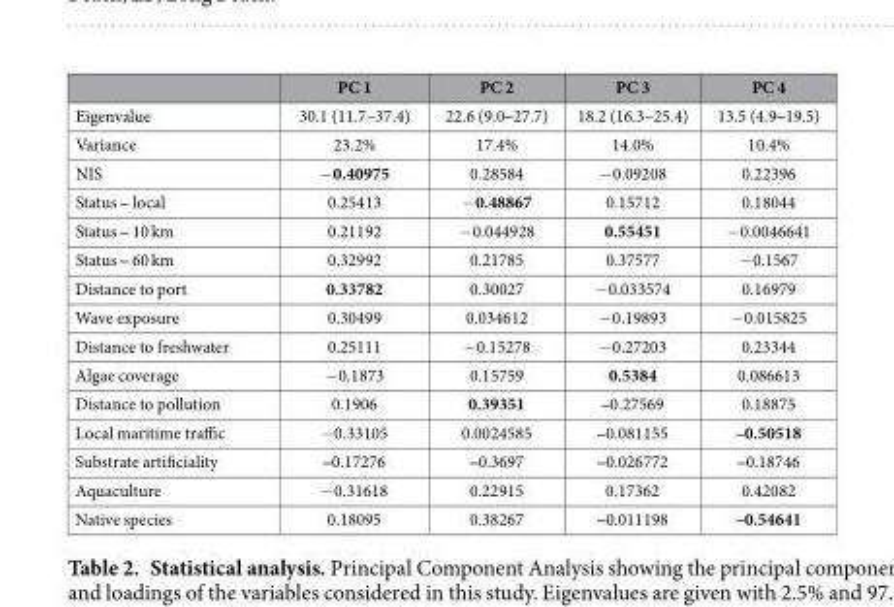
<table><thead><tr><td></td><td>PC 1</td><td>PC 2</td><td>PC 3</td><td>PC 4</td></tr></thead><tbody><tr><td>Eigenvalue</td><td>30.1 (11.7–37.4)</td><td>22.6 (9.0‒ 27.7)</td><td>18.2 (16.3–25.4)</td><td>13.5 (4.9‒ 19.5)</td></tr><tr><td>Variance</td><td>23.2%</td><td>17.4%</td><td>14.0%</td><td>10.4%</td></tr><tr><td>NIS</td><td>− 0.40975</td><td>0.28584</td><td>− 0.09208</td><td>0.22396</td></tr><tr><td>Status ‒ local</td><td>0.25413</td><td>− 0.48867</td><td>0.15712</td><td>0.18044</td></tr><tr><td>Status ‒ 10 km</td><td>0.21192</td><td>− 0.044928</td><td>0.55451</td><td>− 0.0046641</td></tr><tr><td>Status ‒ 60 km</td><td>0.32992</td><td>0.21785</td><td>0.37577</td><td>− 0.1567</td></tr><tr><td>Distance to port</td><td>0.33782</td><td>0.30027</td><td>− 0.033574</td><td>0.16979</td></tr><tr><td>Wave exposure</td><td>0.30499</td><td>0.034612</td><td>− 0.19893</td><td>− 0.015825</td></tr><tr><td>Distance to freshwater</td><td>0.25111</td><td>− 0.15278</td><td>− 0.27203</td><td>0.23344</td></tr><tr><td>Algae coverage</td><td>− 0.1873</td><td>0.15759</td><td>0.5384</td><td>0.086613</td></tr><tr><td>Distance to pollution</td><td>0.1906</td><td>0.39351</td><td>‒ 0.27569</td><td>0.18875</td></tr><tr><td>Local maritime traffic</td><td>− 0.33105</td><td>0.0024585</td><td>‒ 0.081155</td><td>‒ 0.50518</td></tr><tr><td>Substrate artificiality</td><td>‒ 0.17276</td><td>‒ 0.3697</td><td>‒ 0.026772</td><td>‒ 0.18746</td></tr><tr><td>Aquaculture</td><td>− 0.31618</td><td>0.22915</td><td>0.17362</td><td>0.42082</td></tr><tr><td>Native species</td><td>0.18095</td><td>0.38267</td><td>‒ 0.011198</td><td>‒ 0.54641</td></tr></tbody></table>